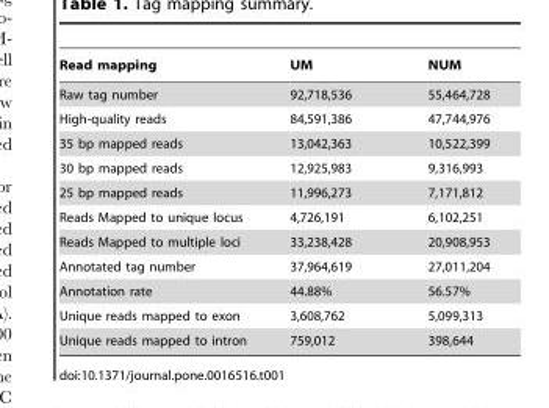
<table><thead><tr><td>Read mapping</td><td>UM</td><td>NUM</td></tr></thead><tbody><tr><td>Raw tag number</td><td>92,718,536</td><td>55,464,728</td></tr><tr><td>High-quality reads</td><td>84,591,386</td><td>47,744,976</td></tr><tr><td>35 bp mapped reads</td><td>13,042,363</td><td>10,522,399</td></tr><tr><td>30 bp mapped reads</td><td>12,925,983</td><td>9,316,993</td></tr><tr><td>25 bp mapped reads</td><td>11,996,273</td><td>7,171,812</td></tr><tr><td>Reads Mapped to unique locus</td><td>4,726,191</td><td>6,102,251</td></tr><tr><td>Reads Mapped to multiple loci</td><td>33,238,428</td><td>20,908,953</td></tr><tr><td>Annotated tag number</td><td>37,964,619</td><td>27,011,204</td></tr><tr><td>Annotation rate</td><td>44.88%</td><td>56.57%</td></tr><tr><td>Unique reads mapped to exon</td><td>3,608,762</td><td>5,099,313</td></tr><tr><td>Unique reads mapped to intron</td><td>759,012</td><td>398,644</td></tr></tbody></table>